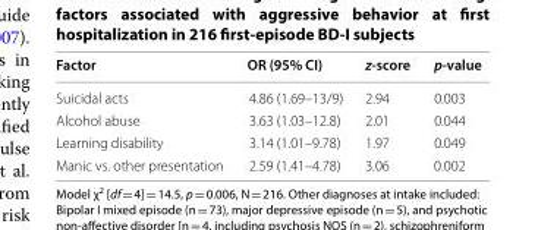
<table><thead><tr><td>Factor</td><td>OR (95% CI)</td><td>z-score</td><td>p-value</td></tr></thead><tbody><tr><td>Suicidal acts</td><td>4.86 (1.69–13/9)</td><td>2.94</td><td>0.003</td></tr><tr><td>Alcohol abuse</td><td>3.63 (1.03–12.8)</td><td>2.01</td><td>0.044</td></tr><tr><td>Learning disability</td><td>3.14 (1.01–9.78)</td><td>1.97</td><td>0.049</td></tr><tr><td>Manic vs. other presentation</td><td>2.59 (1.41–4.78)</td><td>3.06</td><td>0.002</td></tr></tbody></table>